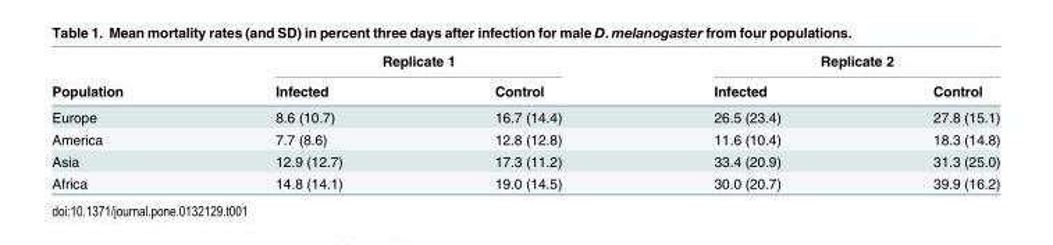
<table><thead><tr><td rowspan="2">Population</td><td colspan="2">Replicate 1</td><td colspan="2">Replicate 2</td></tr><tr><td>Infected</td><td>Control</td><td>Infected</td><td>Control</td></tr></thead><tbody><tr><td>Europe</td><td>8.6 (10.7)</td><td>16.7 (14.4)</td><td>26.5 (23.4)</td><td>27.8 (15.1)</td></tr><tr><td>America</td><td>7.7 (8.6)</td><td>12.8 (12.8)</td><td>11.6 (10.4)</td><td>18.3 (14.8)</td></tr><tr><td>Asia</td><td>12.9 (12.7)</td><td>17.3 (11.2)</td><td>33.4 (20.9)</td><td>31.3 (25.0)</td></tr><tr><td>Africa</td><td>14.8 (14.1)</td><td>19.0 (14.5)</td><td>30.0 (20.7)</td><td>39.9 (16.2)</td></tr></tbody></table>